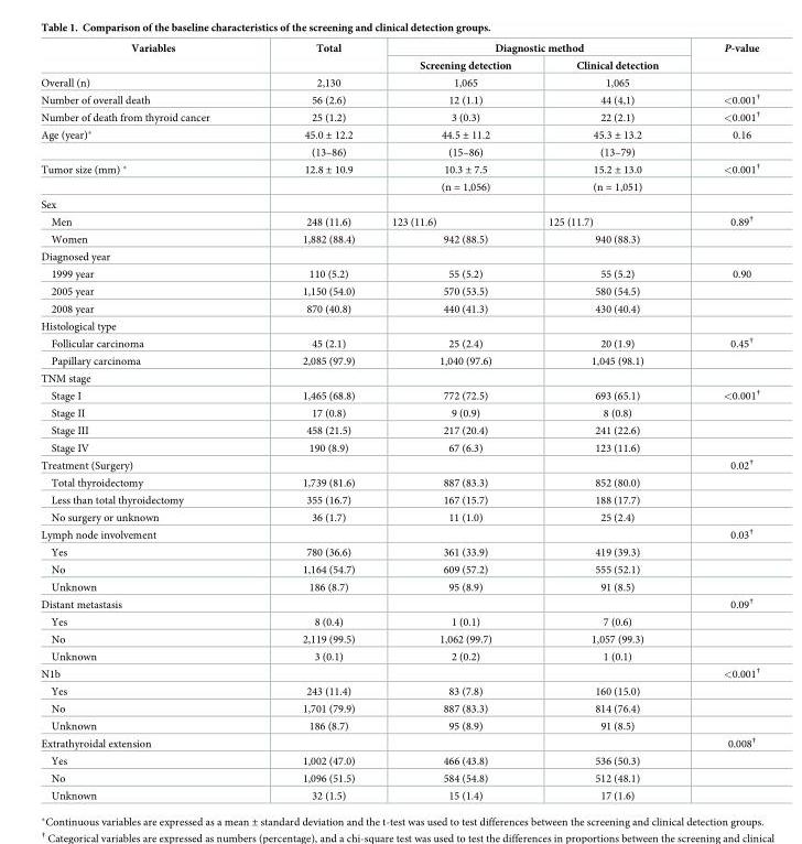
<table><thead><tr><td rowspan="2">Variables</td><td rowspan="2">Total</td><td colspan="2">Diagnostic method</td><td rowspan="2">P-value</td></tr><tr><td>Screening detection</td><td>Clinical detection</td></tr></thead><tbody><tr><td>Overall (n)</td><td>2,130</td><td>1,065</td><td>1,065</td><td></td></tr><tr><td>Number of overall death</td><td>56 (2.6)</td><td>12 (1.1)</td><td>44 (4,1)</td><td>&lt;0.001<sup>†</sup></td></tr><tr><td>Number of death from thyroid cancer</td><td>25 (1.2)</td><td>3 (0.3)</td><td>22 (2.1)</td><td>&lt;0.001<sup>†</sup></td></tr><tr><td rowspan="2">Age (year)*</td><td>45.0 ± 12.2</td><td>44.5 ± 11.2</td><td>45.3 ± 13.2</td><td>0.16</td></tr><tr><td>(13–86)</td><td>(15–86)</td><td>(13–79)</td><td></td></tr><tr><td rowspan="2">Tumor size (mm) *</td><td>12.8 ± 10.9</td><td>10.3 ± 7.5</td><td>15.2 ± 13.0</td><td>&lt;0.001<sup>†</sup></td></tr><tr><td></td><td>(n = 1,056)</td><td>(n = 1,051)</td><td></td></tr><tr><td colspan="5">Sex</td></tr><tr><td>Men</td><td>248 (11.6)</td><td>123 (11.6)</td><td>125 (11.7)</td><td>0.89<sup>†</sup></td></tr><tr><td>Women</td><td>1,882 (88.4)</td><td>942 (88.5)</td><td>940 (88.3)</td><td></td></tr><tr><td colspan="5">Diagnosed year</td></tr><tr><td>1999 year</td><td>110 (5.2)</td><td>55 (5.2)</td><td>55 (5.2)</td><td>0.90</td></tr><tr><td>2005 year</td><td>1,150 (54.0)</td><td>570 (53.5)</td><td>580 (54.5)</td><td></td></tr><tr><td>2008 year</td><td>870 (40.8)</td><td>440 (41.3)</td><td>430 (40.4)</td><td></td></tr><tr><td colspan="5">Histological type</td></tr><tr><td>Follicular carcinoma</td><td>45 (2.1)</td><td>25 (2.4)</td><td>20 (1.9)</td><td>0.45<sup>†</sup></td></tr><tr><td>Papillary carcinoma</td><td>2,085 (97.9)</td><td>1,040 (97.6)</td><td>1,045 (98.1)</td><td></td></tr><tr><td colspan="5">TNM stage</td></tr><tr><td>Stage I</td><td>1,465 (68.8)</td><td>772 (72.5)</td><td>693 (65.1)</td><td>&lt;0.001<sup>†</sup></td></tr><tr><td>Stage II</td><td>17 (0.8)</td><td>9 (0.9)</td><td>8 (0.8)</td><td></td></tr><tr><td>Stage III</td><td>458 (21.5)</td><td>217 (20.4)</td><td>241 (22.6)</td><td></td></tr><tr><td>Stage IV</td><td>190 (8.9)</td><td>67 (6.3)</td><td>123 (11.6)</td><td></td></tr><tr><td>Treatment (Surgery)</td><td></td><td></td><td></td><td>0.02<sup>†</sup></td></tr><tr><td>Total thyroidectomy</td><td>1,739 (81.6)</td><td>887 (83.3)</td><td>852 (80.0)</td><td></td></tr><tr><td>Less than total thyroidectomy</td><td>355 (16.7)</td><td>167 (15.7)</td><td>188 (17.7)</td><td></td></tr><tr><td>No surgery or unknown</td><td>36 (1.7)</td><td>11 (1.0)</td><td>25 (2.4)</td><td></td></tr><tr><td>Lymph node involvement</td><td></td><td></td><td></td><td>0.03<sup>†</sup></td></tr><tr><td>Yes</td><td>780 (36.6)</td><td>361 (33.9)</td><td>419 (39.3)</td><td></td></tr><tr><td>No</td><td>1,164 (54.7)</td><td>609 (57.2)</td><td>555 (52.1)</td><td></td></tr><tr><td>Unknown</td><td>186 (8.7)</td><td>95 (8.9)</td><td>91 (8.5)</td><td></td></tr><tr><td>Distant metastasis</td><td></td><td></td><td></td><td>0.09<sup>†</sup></td></tr><tr><td>Yes</td><td>8 (0.4)</td><td>1 (0.1)</td><td>7 (0.6)</td><td></td></tr><tr><td>No</td><td>2,119 (99.5)</td><td>1,062 (99.7)</td><td>1,057 (99.3)</td><td></td></tr><tr><td>Unknown</td><td>3 (0.1)</td><td>2 (0.2)</td><td>1 (0.1)</td><td></td></tr><tr><td>N1b</td><td></td><td></td><td></td><td>&lt;0.001<sup>†</sup></td></tr><tr><td>Yes</td><td>243 (11.4)</td><td>83 (7.8)</td><td>160 (15.0)</td><td></td></tr><tr><td>No</td><td>1,701 (79.9)</td><td>887 (83.3)</td><td>814 (76.4)</td><td></td></tr><tr><td>Unknown</td><td>186 (8.7)</td><td>95 (8.9)</td><td>91 (8.5)</td><td></td></tr><tr><td>Extrathyroidal extension</td><td></td><td></td><td></td><td>0.008<sup>†</sup></td></tr><tr><td>Yes</td><td>1,002 (47.0)</td><td>466 (43.8)</td><td>536 (50.3)</td><td></td></tr><tr><td>No</td><td>1,096 (51.5)</td><td>584 (54.8)</td><td>512 (48.1)</td><td></td></tr><tr><td>Unknown</td><td>32 (1.5)</td><td>15 (1.4)</td><td>17 (1.6)</td><td></td></tr></tbody></table>